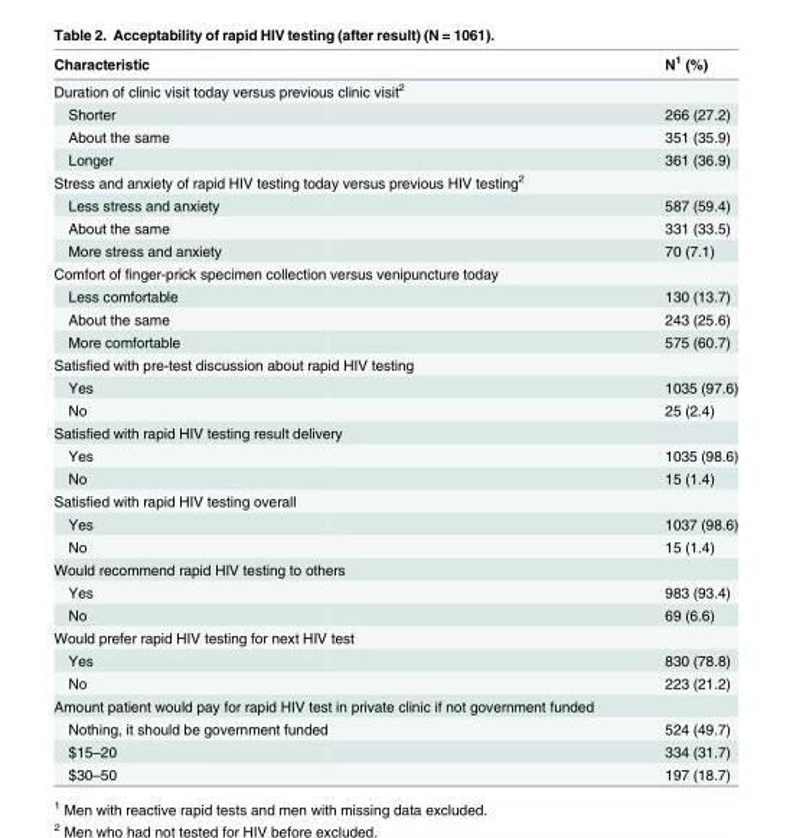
<table><thead><tr><td>Characteristic</td><td>N<sup>1</sup> (%)</td></tr></thead><tbody><tr><td colspan="2">Duration of clinic visit today versus previous clinic visit<sup>2</sup></td></tr><tr><td>Shorter</td><td>266 (27.2)</td></tr><tr><td>About the same</td><td>351 (35.9)</td></tr><tr><td>Longer</td><td>361 (36.9)</td></tr><tr><td colspan="2">Stress and anxiety of rapid HIV testing today versus previous HIV testing<sup>2</sup></td></tr><tr><td>Less stress and anxiety</td><td>587 (59.4)</td></tr><tr><td>About the same</td><td>331 (33.5)</td></tr><tr><td>More stress and anxiety</td><td>70 (7.1)</td></tr><tr><td colspan="2">Comfort of finger-prick specimen collection versus venipuncture today</td></tr><tr><td>Less comfortable</td><td>130 (13.7)</td></tr><tr><td>About the same</td><td>243 (25.6)</td></tr><tr><td>More comfortable</td><td>575 (60.7)</td></tr><tr><td colspan="2">Satisfied with pre-test discussion about rapid HIV testing</td></tr><tr><td>Yes</td><td>1035 (97.6)</td></tr><tr><td>No</td><td>25 (2.4)</td></tr><tr><td colspan="2">Satisfied with rapid HIV testing result delivery</td></tr><tr><td>Yes</td><td>1035 (98.6)</td></tr><tr><td>No</td><td>15 (1.4)</td></tr><tr><td colspan="2">Satisfied with rapid HIV testing overall</td></tr><tr><td>Yes</td><td>1037 (98.6)</td></tr><tr><td>No</td><td>15 (1.4)</td></tr><tr><td colspan="2">Would recommend rapid HIV testing to others</td></tr><tr><td>Yes</td><td>983 (93.4)</td></tr><tr><td>No</td><td>69 (6.6)</td></tr><tr><td colspan="2">Would prefer rapid HIV testing for next HIV test</td></tr><tr><td>Yes</td><td>830 (78.8)</td></tr><tr><td>No</td><td>223 (21.2)</td></tr><tr><td colspan="2">Amount patient would pay for rapid HIV test in private clinic if not government funded</td></tr><tr><td>Nothing, it should be government funded</td><td>524 (49.7)</td></tr><tr><td>$15–20</td><td>334 (31.7)</td></tr><tr><td>$30–50</td><td>197 (18.7)</td></tr></tbody></table>